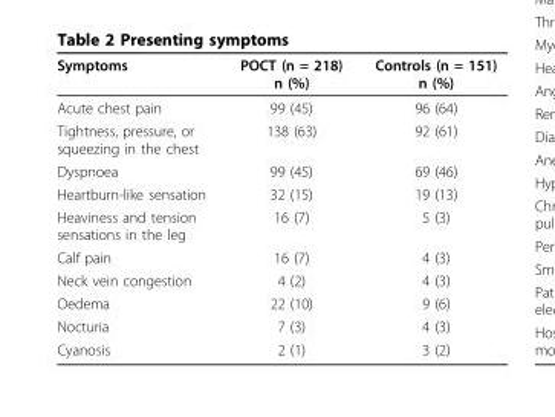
<table><thead><tr><td>Symptoms</td><td>POCT (n = 218) n (%)</td><td>Controls (n = 151) n (%)</td></tr></thead><tbody><tr><td>Acute chest pain</td><td>99 (45)</td><td>96 (64)</td></tr><tr><td>Tightness, pressure, or squeezing in the chest</td><td>138 (63)</td><td>92 (61)</td></tr><tr><td>Dyspnoea</td><td>99 (45)</td><td>69 (46)</td></tr><tr><td>Heartburn-like sensation</td><td>32 (15)</td><td>19 (13)</td></tr><tr><td>Heaviness and tension sensations in the leg</td><td>16 (7)</td><td>5 (3)</td></tr><tr><td>Calf pain</td><td>16 (7)</td><td>4 (3)</td></tr><tr><td>Neck vein congestion</td><td>4 (2)</td><td>4 (3)</td></tr><tr><td>Oedema</td><td>22 (10)</td><td>9 (6)</td></tr><tr><td>Nocturia</td><td>7 (3)</td><td>4 (3)</td></tr><tr><td>Cyanosis</td><td>2 (1)</td><td>3 (2)</td></tr></tbody></table>